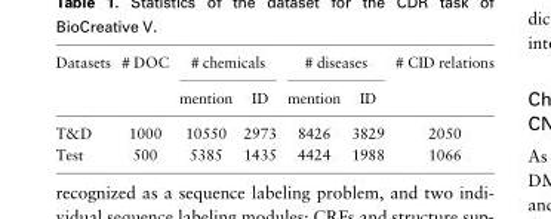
<table><thead><tr><td rowspan="2">Datasets</td><td rowspan="2"># DOC</td><td colspan="2"># chemicals</td><td colspan="2"># diseases</td><td rowspan="2"># CID relations</td></tr><tr><td>mention</td><td>ID</td><td>mention</td><td>ID</td></tr></thead><tbody><tr><td>T&amp;D</td><td>1000</td><td>10550</td><td>2973</td><td>8426</td><td>3829</td><td>2050</td></tr><tr><td>Test</td><td>500</td><td>5385</td><td>1435</td><td>4424</td><td>1988</td><td>1066</td></tr></tbody></table>